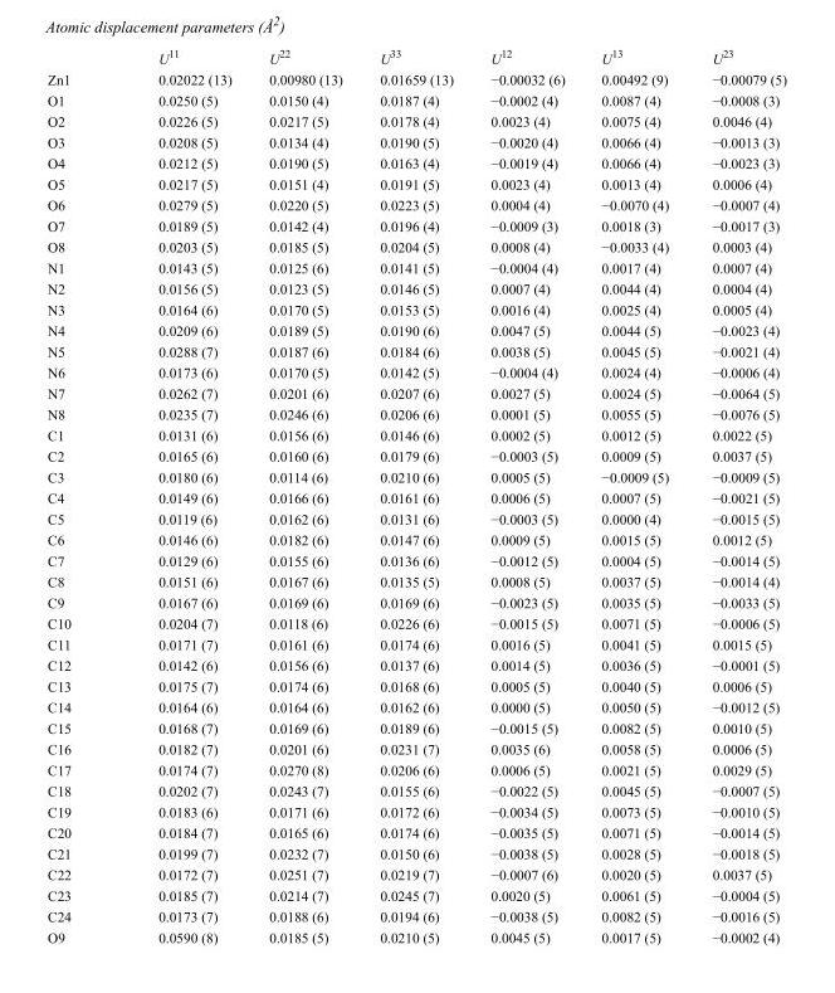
<table><thead><tr><td></td><td>U<sup>11</sup></td><td>U<sup>22</sup></td><td>U<sup>33</sup></td><td>U<sup>12</sup></td><td>U<sup>13</sup></td><td>U<sup>23</sup></td></tr></thead><tbody><tr><td>Zn1</td><td>0.02022 (13)</td><td>0.00980 (13)</td><td>0.01659 (13)</td><td>−0.00032 (6)</td><td>0.00492 (9)</td><td>−0.00079 (5)</td></tr><tr><td>O1</td><td>0.0250 (5)</td><td>0.0150 (4)</td><td>0.0187 (4)</td><td>−0.0002 (4)</td><td>0.0087 (4)</td><td>−0.0008 (3)</td></tr><tr><td>O2</td><td>0.0226 (5)</td><td>0.0217 (5)</td><td>0.0178 (4)</td><td>0.0023 (4)</td><td>0.0075 (4)</td><td>0.0046 (4)</td></tr><tr><td>O3</td><td>0.0208 (5)</td><td>0.0134 (4)</td><td>0.0190 (5)</td><td>−0.0020 (4)</td><td>0.0066 (4)</td><td>−0.0013 (3)</td></tr><tr><td>O4</td><td>0.0212 (5)</td><td>0.0190 (5)</td><td>0.0163 (4)</td><td>−0.0019 (4)</td><td>0.0066 (4)</td><td>−0.0023 (3)</td></tr><tr><td>O5</td><td>0.0217 (5)</td><td>0.0151 (4)</td><td>0.0191 (5)</td><td>0.0023 (4)</td><td>0.0013 (4)</td><td>0.0006 (4)</td></tr><tr><td>O6</td><td>0.0279 (5)</td><td>0.0220 (5)</td><td>0.0223 (5)</td><td>0.0004 (4)</td><td>−0.0070 (4)</td><td>−0.0007 (4)</td></tr><tr><td>O7</td><td>0.0189 (5)</td><td>0.0142 (4)</td><td>0.0196 (4)</td><td>−0.0009 (3)</td><td>0.0018 (3)</td><td>−0.0017 (3)</td></tr><tr><td>O8</td><td>0.0203 (5)</td><td>0.0185 (5)</td><td>0.0204 (5)</td><td>0.0008 (4)</td><td>−0.0033 (4)</td><td>0.0003 (4)</td></tr><tr><td>N1</td><td>0.0143 (5)</td><td>0.0125 (6)</td><td>0.0141 (5)</td><td>−0.0004 (4)</td><td>0.0017 (4)</td><td>0.0007 (4)</td></tr><tr><td>N2</td><td>0.0156 (5)</td><td>0.0123 (5)</td><td>0.0146 (5)</td><td>0.0007 (4)</td><td>0.0044 (4)</td><td>0.0004 (4)</td></tr><tr><td>N3</td><td>0.0164 (6)</td><td>0.0170 (5)</td><td>0.0153 (5)</td><td>0.0016 (4)</td><td>0.0025 (4)</td><td>0.0005 (4)</td></tr><tr><td>N4</td><td>0.0209 (6)</td><td>0.0189 (5)</td><td>0.0190 (6)</td><td>0.0047 (5)</td><td>0.0044 (5)</td><td>−0.0023 (4)</td></tr><tr><td>N5</td><td>0.0288 (7)</td><td>0.0187 (6)</td><td>0.0184 (6)</td><td>0.0038 (5)</td><td>0.0045 (5)</td><td>−0.0021 (4)</td></tr><tr><td>N6</td><td>0.0173 (6)</td><td>0.0170 (5)</td><td>0.0142 (5)</td><td>−0.0004 (4)</td><td>0.0024 (4)</td><td>−0.0006 (4)</td></tr><tr><td>N7</td><td>0.0262 (7)</td><td>0.0201 (6)</td><td>0.0207 (6)</td><td>0.0027 (5)</td><td>0.0024 (5)</td><td>−0.0064 (5)</td></tr><tr><td>N8</td><td>0.0235 (7)</td><td>0.0246 (6)</td><td>0.0206 (6)</td><td>0.0001 (5)</td><td>0.0055 (5)</td><td>−0.0076 (5)</td></tr><tr><td>C1</td><td>0.0131 (6)</td><td>0.0156 (6)</td><td>0.0146 (6)</td><td>0.0002 (5)</td><td>0.0012 (5)</td><td>0.0022 (5)</td></tr><tr><td>C2</td><td>0.0165 (6)</td><td>0.0160 (6)</td><td>0.0179 (6)</td><td>−0.0003 (5)</td><td>0.0009 (5)</td><td>0.0037 (5)</td></tr><tr><td>C3</td><td>0.0180 (6)</td><td>0.0114 (6)</td><td>0.0210 (6)</td><td>0.0005 (5)</td><td>−0.0009 (5)</td><td>−0.0009 (5)</td></tr><tr><td>C4</td><td>0.0149 (6)</td><td>0.0166 (6)</td><td>0.0161 (6)</td><td>0.0006 (5)</td><td>0.0007 (5)</td><td>−0.0021 (5)</td></tr><tr><td>C5</td><td>0.0119 (6)</td><td>0.0162 (6)</td><td>0.0131 (6)</td><td>−0.0003 (5)</td><td>0.0000 (4)</td><td>−0.0015 (5)</td></tr><tr><td>C6</td><td>0.0146 (6)</td><td>0.0182 (6)</td><td>0.0147 (6)</td><td>0.0009 (5)</td><td>0.0015 (5)</td><td>0.0012 (5)</td></tr><tr><td>C7</td><td>0.0129 (6)</td><td>0.0155 (6)</td><td>0.0136 (6)</td><td>−0.0012 (5)</td><td>0.0004 (5)</td><td>−0.0014 (5)</td></tr><tr><td>C8</td><td>0.0151 (6)</td><td>0.0167 (6)</td><td>0.0135 (5)</td><td>0.0008 (5)</td><td>0.0037 (5)</td><td>−0.0014 (4)</td></tr><tr><td>C9</td><td>0.0167 (6)</td><td>0.0169 (6)</td><td>0.0169 (6)</td><td>−0.0023 (5)</td><td>0.0035 (5)</td><td>−0.0033 (5)</td></tr><tr><td>C10</td><td>0.0204 (7)</td><td>0.0118 (6)</td><td>0.0226 (6)</td><td>−0.0015 (5)</td><td>0.0071 (5)</td><td>−0.0006 (5)</td></tr><tr><td>C11</td><td>0.0171 (7)</td><td>0.0161 (6)</td><td>0.0174 (6)</td><td>0.0016 (5)</td><td>0.0041 (5)</td><td>0.0015 (5)</td></tr><tr><td>C12</td><td>0.0142 (6)</td><td>0.0156 (6)</td><td>0.0137 (6)</td><td>0.0014 (5)</td><td>0.0036 (5)</td><td>−0.0001 (5)</td></tr><tr><td>C13</td><td>0.0175 (7)</td><td>0.0174 (6)</td><td>0.0168 (6)</td><td>0.0005 (5)</td><td>0.0040 (5)</td><td>0.0006 (5)</td></tr><tr><td>C14</td><td>0.0164 (6)</td><td>0.0164 (6)</td><td>0.0162 (6)</td><td>0.0000 (5)</td><td>0.0050 (5)</td><td>−0.0012 (5)</td></tr><tr><td>C15</td><td>0.0168 (7)</td><td>0.0169 (6)</td><td>0.0189 (6)</td><td>−0.0015 (5)</td><td>0.0082 (5)</td><td>0.0010 (5)</td></tr><tr><td>C16</td><td>0.0182 (7)</td><td>0.0201 (6)</td><td>0.0231 (7)</td><td>0.0035 (6)</td><td>0.0058 (5)</td><td>0.0006 (5)</td></tr><tr><td>C17</td><td>0.0174 (7)</td><td>0.0270 (8)</td><td>0.0206 (6)</td><td>0.0006 (5)</td><td>0.0021 (5)</td><td>0.0029 (5)</td></tr><tr><td>C18</td><td>0.0202 (7)</td><td>0.0243 (7)</td><td>0.0155 (6)</td><td>−0.0022 (5)</td><td>0.0045 (5)</td><td>−0.0007 (5)</td></tr><tr><td>C19</td><td>0.0183 (6)</td><td>0.0171 (6)</td><td>0.0172 (6)</td><td>−0.0034 (5)</td><td>0.0073 (5)</td><td>−0.0010 (5)</td></tr><tr><td>C20</td><td>0.0184 (7)</td><td>0.0165 (6)</td><td>0.0174 (6)</td><td>−0.0035 (5)</td><td>0.0071 (5)</td><td>−0.0014 (5)</td></tr><tr><td>C21</td><td>0.0199 (7)</td><td>0.0232 (7)</td><td>0.0150 (6)</td><td>−0.0038 (5)</td><td>0.0028 (5)</td><td>−0.0018 (5)</td></tr><tr><td>C22</td><td>0.0172 (7)</td><td>0.0251 (7)</td><td>0.0219 (7)</td><td>−0.0007 (6)</td><td>0.0020 (5)</td><td>0.0037 (5)</td></tr><tr><td>C23</td><td>0.0185 (7)</td><td>0.0214 (7)</td><td>0.0245 (7)</td><td>0.0020 (5)</td><td>0.0061 (5)</td><td>−0.0004 (5)</td></tr><tr><td>C24</td><td>0.0173 (7)</td><td>0.0188 (6)</td><td>0.0194 (6)</td><td>−0.0038 (5)</td><td>0.0082 (5)</td><td>−0.0016 (5)</td></tr><tr><td>O9</td><td>0.0590 (8)</td><td>0.0185 (5)</td><td>0.0210 (5)</td><td>0.0045 (5)</td><td>0.0017 (5)</td><td>−0.0002 (4)</td></tr></tbody></table>